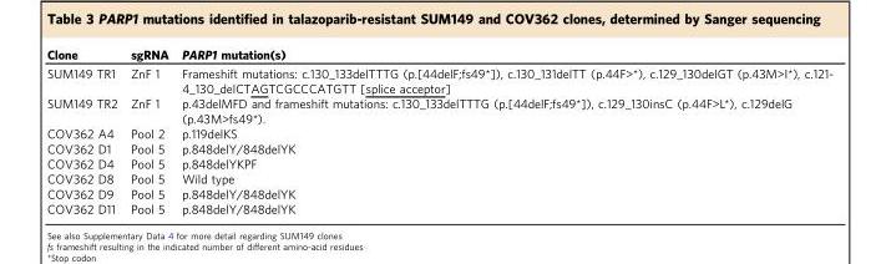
<table><thead><tr><td>Clone</td><td>sgRNA</td><td>PARP1 mutation(s)</td></tr></thead><tbody><tr><td>SUM149 TR1</td><td>ZnF 1</td><td>Frameshift mutations: c.130_133delTTTG (p.[44delF;fs49*]), c.130_131delTT (p.44F&gt;*), c.129_130delGT (p.43M&gt;I*), c.121- 4_130_delCTAGTCGCCCATGTT [splice acceptor]</td></tr><tr><td>SUM149 TR2</td><td>ZnF 1</td><td>p.43delMFD and frameshift mutations: c.130_133delTTTG (p.[44delF;fs49*]), c.129_130insC (p.44F&gt;L*), c.129delG (p.43M&gt;fs49*).</td></tr><tr><td>COV362 A4</td><td>Pool 2</td><td>p.119delKS</td></tr><tr><td>COV362 D1</td><td>Pool 5</td><td>p.848delY/848delYK</td></tr><tr><td>COV362 D4</td><td>Pool 5</td><td>p.848delYKPF</td></tr><tr><td>COV362 D8</td><td>Pool 5</td><td>Wild type</td></tr><tr><td>COV362 D9</td><td>Pool 5</td><td>p.848delY/848delYK</td></tr><tr><td>COV362 D11</td><td>Pool 5</td><td>p.848delY/848delYK</td></tr></tbody></table>